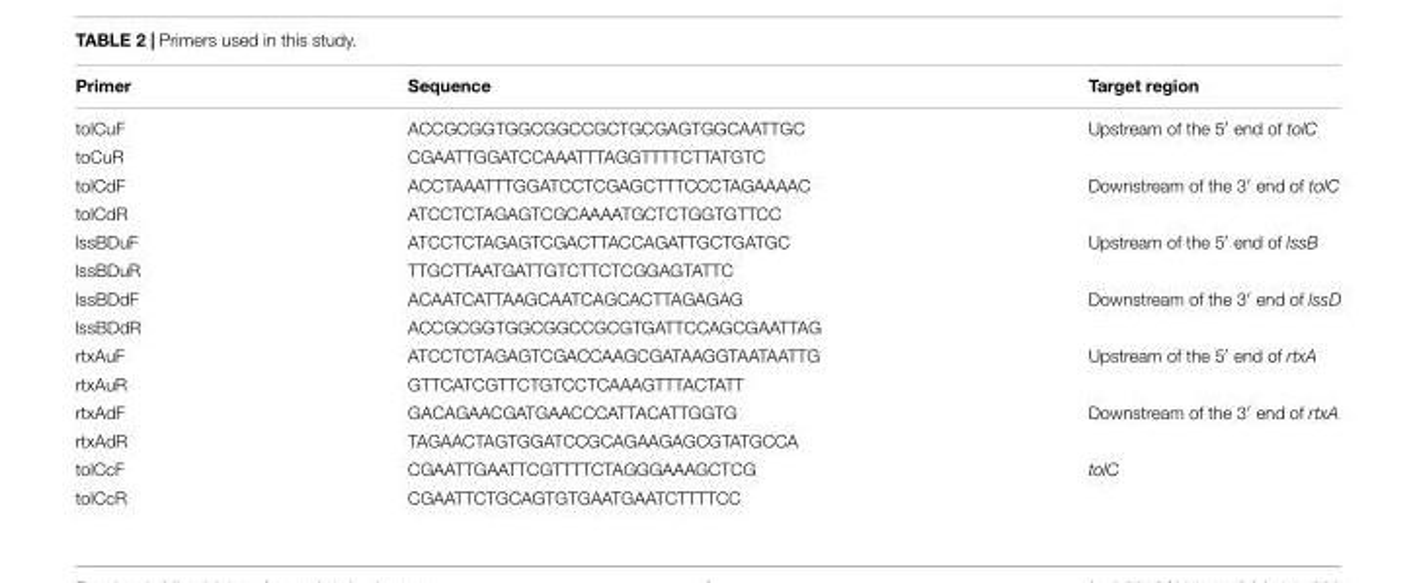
<table><thead><tr><td>Primer</td><td>Sequence</td><td>Target region</td></tr></thead><tbody><tr><td>tolCuF</td><td>ACCGCGGTGGCGGCCGCTGCGAGTGGCAATTGC</td><td>Upstream of the 5′ end of tolC</td></tr><tr><td>toCuR</td><td>CGAATTGGATCCAAATTTAGGTTTTCTTATGTC</td><td></td></tr><tr><td>tolCdF</td><td>ACCTAAATTTGGATCCTCGAGCTTTCCCTAGAAAAC</td><td>Downstream of the 3′ end of tolC</td></tr><tr><td>tolCdR</td><td>ATCCTCTAGAGTCGCAAAATGCTCTGGTGTTCC</td><td></td></tr><tr><td>lssBDuF</td><td>ATCCTCTAGAGTCGACTTACCAGATTGCTGATGC</td><td>Upstream of the 5′ end of lssB</td></tr><tr><td>lssBDuR</td><td>TTGCTTAATGATTGTCTTCTCGGAGTATTC</td><td></td></tr><tr><td>lssBDdF</td><td>ACAATCATTAAGCAATCAGCACTTAGAGAG</td><td>Downstream of the 3′ end of lssD</td></tr><tr><td>lssBDdR</td><td>ACCGCGGTGGCGGCCGCGTGATTCCAGCGAATTAG</td><td></td></tr><tr><td>rtxAuF</td><td>ATCCTCTAGAGTCGACCAAGCGATAAGGTAATAATTG</td><td>Upstream of the 5′ end of rtxA</td></tr><tr><td>rtxAuR</td><td>GTTCATCGTTCTGTCCTCAAAGTTTACTATT</td><td></td></tr><tr><td>rtxAdF</td><td>GACAGAACGATGAACCCATTACATTGGTG</td><td>Downstream of the 3′ end of rtxA</td></tr><tr><td>rtxAdR</td><td>TAGAACTAGTGGATCCGCAGAAGAGCGTATGCCA</td><td></td></tr><tr><td>tolCcF</td><td>CGAATTGAATTCGTTTTCTAGGGAAAGCTCG</td><td>tolC</td></tr><tr><td>tolCcR</td><td>CGAATTCTGCAGTGTGAATGAATCTTTTCC</td><td></td></tr></tbody></table>